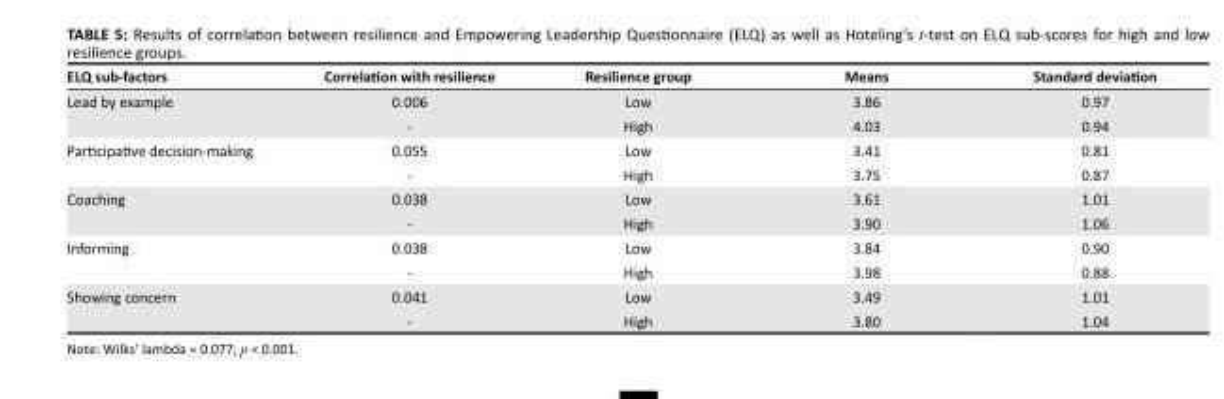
<table><thead><tr><td>ELQ sub-factors</td><td>Correlation with resilience</td><td>Resilience group</td><td>Means</td><td>Standard deviation</td></tr></thead><tbody><tr><td rowspan="2">Lead by example</td><td>0.006</td><td>Low</td><td>3.86</td><td>0.97</td></tr><tr><td>-</td><td>High</td><td>4.03</td><td>0.94</td></tr><tr><td rowspan="2">Participative decision-making</td><td>0.055</td><td>Low</td><td>3.41</td><td>0.81</td></tr><tr><td>-</td><td>High</td><td>3.75</td><td>0.87</td></tr><tr><td rowspan="2">Coaching</td><td>0.038</td><td>Low</td><td>3.61</td><td>1.01</td></tr><tr><td>-</td><td>High</td><td>3.90</td><td>1.06</td></tr><tr><td rowspan="2">Informing</td><td>0.038</td><td>Low</td><td>3.84</td><td>0.90</td></tr><tr><td>-</td><td>High</td><td>3.98</td><td>0.88</td></tr><tr><td rowspan="2">Showing concern</td><td>0.041</td><td>Low</td><td>3.49</td><td>1.01</td></tr><tr><td>-</td><td>High</td><td>3.80</td><td>1.04</td></tr></tbody></table>